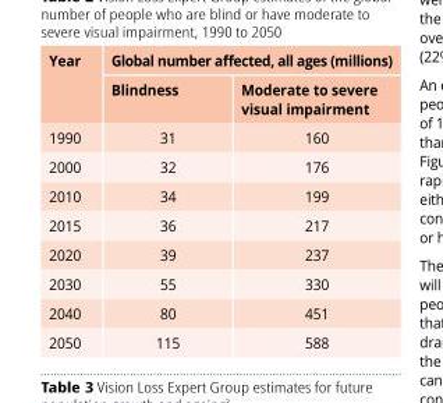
<table><thead><tr><td rowspan="2">Year</td><td colspan="2">Global number affected, all ages (millions)</td></tr><tr><td>Blindness</td><td>Moderate to severe visual impairment</td></tr></thead><tbody><tr><td>1990</td><td>31</td><td>160</td></tr><tr><td>2000</td><td>32</td><td>176</td></tr><tr><td>2010</td><td>34</td><td>199</td></tr><tr><td>2015</td><td>36</td><td>217</td></tr><tr><td>2020</td><td>39</td><td>237</td></tr><tr><td>2030</td><td>55</td><td>330</td></tr><tr><td>2040</td><td>80</td><td>451</td></tr><tr><td>2050</td><td>115</td><td>588</td></tr></tbody></table>